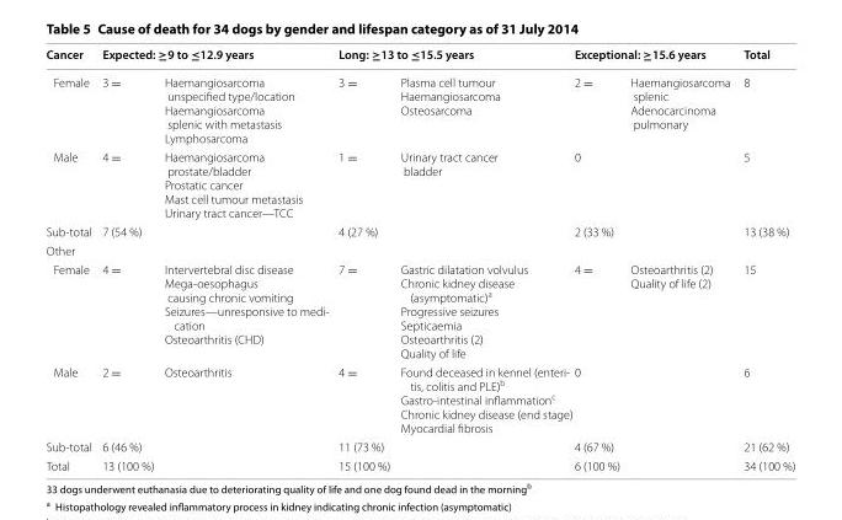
<table><thead><tr><td rowspan="2">Cancer Female</td><td colspan="2">Expected: ≥9 to ≤12.9 years</td><td colspan="2">Long: ≥13 to ≤15.5 years</td><td colspan="2">Exceptional: ≥15.6 years</td><td rowspan="2">Total 8</td></tr><tr><td>3 =</td><td>Haemangiosarcoma unspecified type/location Haemangiosarcoma splenic with metastasis Lymphosarcoma</td><td>3 =</td><td>Plasma cell tumour Haemangiosarcoma Osteosarcoma</td><td>2 =</td><td>Haemangiosarcoma splenic Adenocarcinoma pulmonary</td></tr></thead><tbody><tr><td>Male</td><td>4 =</td><td>Haemangiosarcoma prostate/bladder Prostatic cancer Mast cell tumour metastasis Urinary tract cancer—TCC</td><td>1 =</td><td>Urinary tract cancer bladder</td><td>0</td><td></td><td>5</td></tr><tr><td>Sub-total</td><td>7 (54 %)</td><td></td><td>4 (27 %)</td><td></td><td>2 (33 %)</td><td></td><td>13 (38 %)</td></tr><tr><td colspan="8">Other</td></tr><tr><td>Female</td><td>4 =</td><td>Intervertebral disc disease Mega-oesophagus causing chronic vomiting Seizures—unresponsive to medi- cation Osteoarthritis (CHD)</td><td>7 =</td><td>Gastric dilatation volvulus Chronic kidney disease (asymptomatic)<sup>a</sup> Progressive seizures Septicaemia Osteoarthritis (2) Quality of life</td><td>4 =</td><td>Osteoarthritis (2) Quality of life (2)</td><td>15</td></tr><tr><td>Male</td><td>2 =</td><td>Osteoarthritis</td><td>4 =</td><td>Found deceased in kennel (enteri- tis, colitis and PLE)b Gastro-intestinal inflammationc Chronic kidney disease (end stage) Myocardial fibrosis</td><td>0</td><td></td><td>6</td></tr><tr><td>Sub-total</td><td>6 (46 %)</td><td></td><td>11 (73 %)</td><td></td><td>4 (67 %)</td><td></td><td>21 (62 %)</td></tr><tr><td>Total</td><td>13 (100 %)</td><td></td><td>15 (100 %)</td><td></td><td>6 (100 %)</td><td></td><td>34 (100 %)</td></tr></tbody></table>